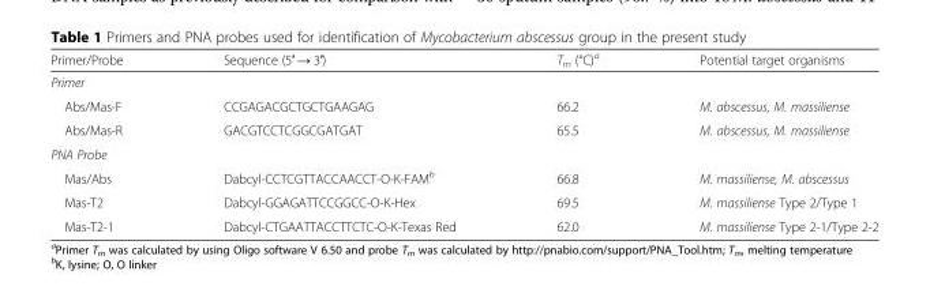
<table><thead><tr><td>Primer/Probe</td><td>Sequence (5′ → 3′)</td><td>T<sub>m</sub> (°C)<sup>a</sup></td><td>Potential target organisms</td></tr></thead><tbody><tr><td colspan="4">Primer</td></tr><tr><td>Abs/Mas-F</td><td>CCGAGACGCTGCTGAAGAG</td><td>66.2</td><td>M. abscessus, M. massiliense</td></tr><tr><td>Abs/Mas-R</td><td>GACGTCCTCGGCGATGAT</td><td>65.5</td><td>M. abscessus, M. massiliense</td></tr><tr><td colspan="4">PNA Probe</td></tr><tr><td>Mas/Abs</td><td>Dabcyl-CCTCGTTACCAACCT-O-K-FAM<sup>b</sup></td><td>66.8</td><td>M. massiliense, M. abscessus</td></tr><tr><td>Mas-T2</td><td>Dabcyl-GGAGATTCCGGCC-O-K-Hex</td><td>69.5</td><td>M. massiliense Type 2/Type 1</td></tr><tr><td>Mas-T2-1</td><td>Dabcyl-CTGAATTACCTTCTC-O-K-Texas Red</td><td>62.0</td><td>M. massiliense Type 2-1/Type 2-2</td></tr></tbody></table>